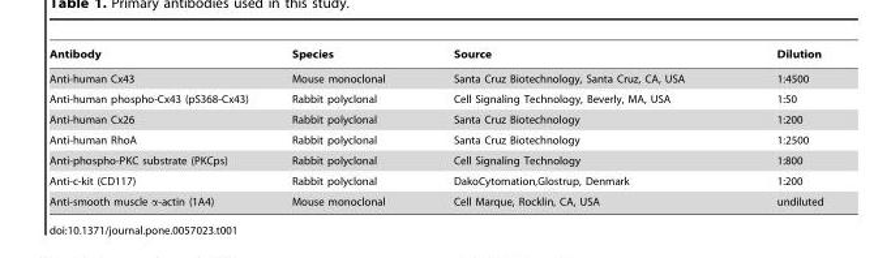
<table><thead><tr><td>Antibody</td><td>Species</td><td>Source</td><td>Dilution</td></tr></thead><tbody><tr><td>Anti-human Cx43</td><td>Mouse monoclonal</td><td>Santa Cruz Biotechnology, Santa Cruz, CA, USA</td><td>1:4500</td></tr><tr><td>Anti-human phospho-Cx43 (pS368-Cx43)</td><td>Rabbit polyclonal</td><td>Cell Signaling Technology, Beverly, MA, USA</td><td>1:50</td></tr><tr><td>Anti-human Cx26</td><td>Rabbit polyclonal</td><td>Santa Cruz Biotechnology</td><td>1:200</td></tr><tr><td>Anti-human RhoA</td><td>Rabbit polyclonal</td><td>Santa Cruz Biotechnology</td><td>1:2500</td></tr><tr><td>Anti-phospho-PKC substrate (PKCps)</td><td>Rabbit polyclonal</td><td>Cell Signaling Technology</td><td>1:800</td></tr><tr><td>Anti-c-kit (CD117)</td><td>Rabbit polyclonal</td><td>DakoCytomation,Glostrup, Denmark</td><td>1:200</td></tr><tr><td>Anti-smooth muscle α-actin (1A4)</td><td>Mouse monoclonal</td><td>Cell Marque, Rocklin, CA, USA</td><td>undiluted</td></tr></tbody></table>